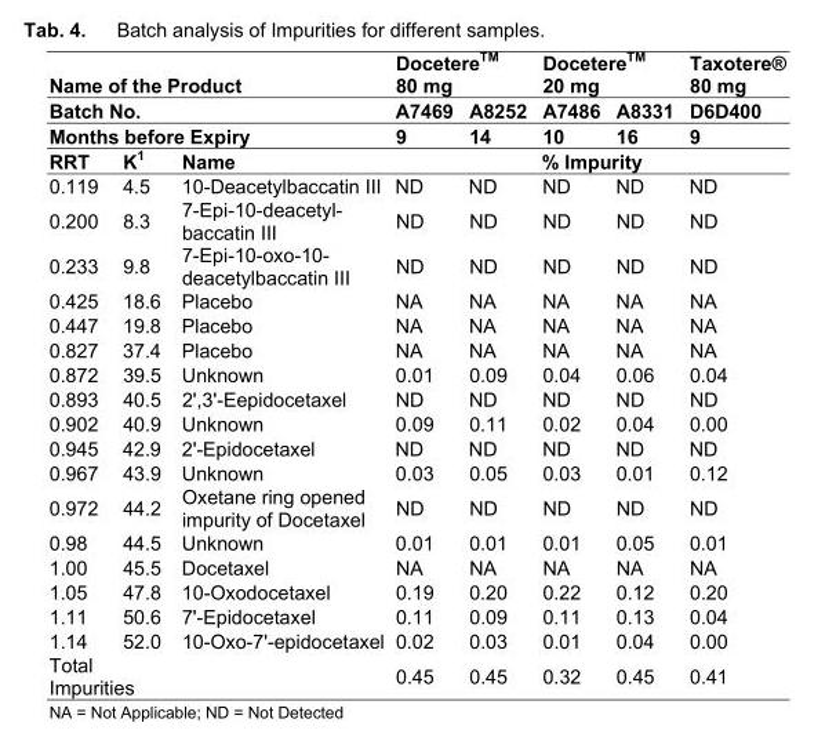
<table><thead><tr><td rowspan="3" colspan="3">Name of the Product Batch No. Months before Expiry</td><td colspan="2">DocetereTM 80 mg</td><td colspan="2">DocetereTM 20 mg</td><td rowspan="3">Taxotere® 80 mg D6D400 9</td></tr><tr><td rowspan="2">A7469 9</td><td rowspan="2">A8252 14</td><td rowspan="2">A7486 10</td><td rowspan="2">A8331 16</td></tr><tr></tr><tr><td>RRT</td><td>K<sup>1</sup></td><td>Name</td><td colspan="5">% Impurity</td></tr></thead><tbody><tr><td>0.119</td><td>4.5</td><td>10-Deacetylbaccatin III</td><td>ND</td><td>ND</td><td>ND</td><td>ND</td><td>ND</td></tr><tr><td>0.200</td><td>8.3</td><td>7-Epi-10-deacetyl- baccatin III</td><td>ND</td><td>ND</td><td>ND</td><td>ND</td><td>ND</td></tr><tr><td>0.233</td><td>9.8</td><td>7-Epi-10-oxo-10- deacetylbaccatin III</td><td>ND</td><td>ND</td><td>ND</td><td>ND</td><td>ND</td></tr><tr><td>0.425</td><td>18.6</td><td>Placebo</td><td>NA</td><td>NA</td><td>NA</td><td>NA</td><td>NA</td></tr><tr><td>0.447</td><td>19.8</td><td>Placebo</td><td>NA</td><td>NA</td><td>NA</td><td>NA</td><td>NA</td></tr><tr><td>0.827</td><td>37.4</td><td>Placebo</td><td>NA</td><td>NA</td><td>NA</td><td>NA</td><td>NA</td></tr><tr><td>0.872</td><td>39.5</td><td>Unknown</td><td>0.01</td><td>0.09</td><td>0.04</td><td>0.06</td><td>0.04</td></tr><tr><td>0.893</td><td>40.5</td><td>2&#x27;,3&#x27;-Eepidocetaxel</td><td>ND</td><td>ND</td><td>ND</td><td>ND</td><td>ND</td></tr><tr><td>0.902</td><td>40.9</td><td>Unknown</td><td>0.09</td><td>0.11</td><td>0.02</td><td>0.04</td><td>0.00</td></tr><tr><td>0.945</td><td>42.9</td><td>2&#x27;-Epidocetaxel</td><td>ND</td><td>ND</td><td>ND</td><td>ND</td><td>ND</td></tr><tr><td>0.967</td><td>43.9</td><td>Unknown</td><td>0.03</td><td>0.05</td><td>0.03</td><td>0.01</td><td>0.12</td></tr><tr><td>0.972</td><td>44.2</td><td>Oxetane ring opened impurity of Docetaxel</td><td>ND</td><td>ND</td><td>ND</td><td>ND</td><td>ND</td></tr><tr><td>0.98</td><td>44.5</td><td>Unknown</td><td>0.01</td><td>0.01</td><td>0.01</td><td>0.05</td><td>0.01</td></tr><tr><td>1.00</td><td>45.5</td><td>Docetaxel</td><td>NA</td><td>NA</td><td>NA</td><td>NA</td><td>NA</td></tr><tr><td>1.05</td><td>47.8</td><td>10-Oxodocetaxel</td><td>0.19</td><td>0.20</td><td>0.22</td><td>0.12</td><td>0.20</td></tr><tr><td>1.11</td><td>50.6</td><td>7&#x27;-Epidocetaxel</td><td>0.11</td><td>0.09</td><td>0.11</td><td>0.13</td><td>0.04</td></tr><tr><td>1.14</td><td>52.0</td><td>10-Oxo-7&#x27;-epidocetaxel</td><td>0.02</td><td>0.03</td><td>0.01</td><td>0.04</td><td>0.00</td></tr><tr><td colspan="2">Total Impurities</td><td></td><td>0.45</td><td>0.45</td><td>0.32</td><td>0.45</td><td>0.41</td></tr></tbody></table>